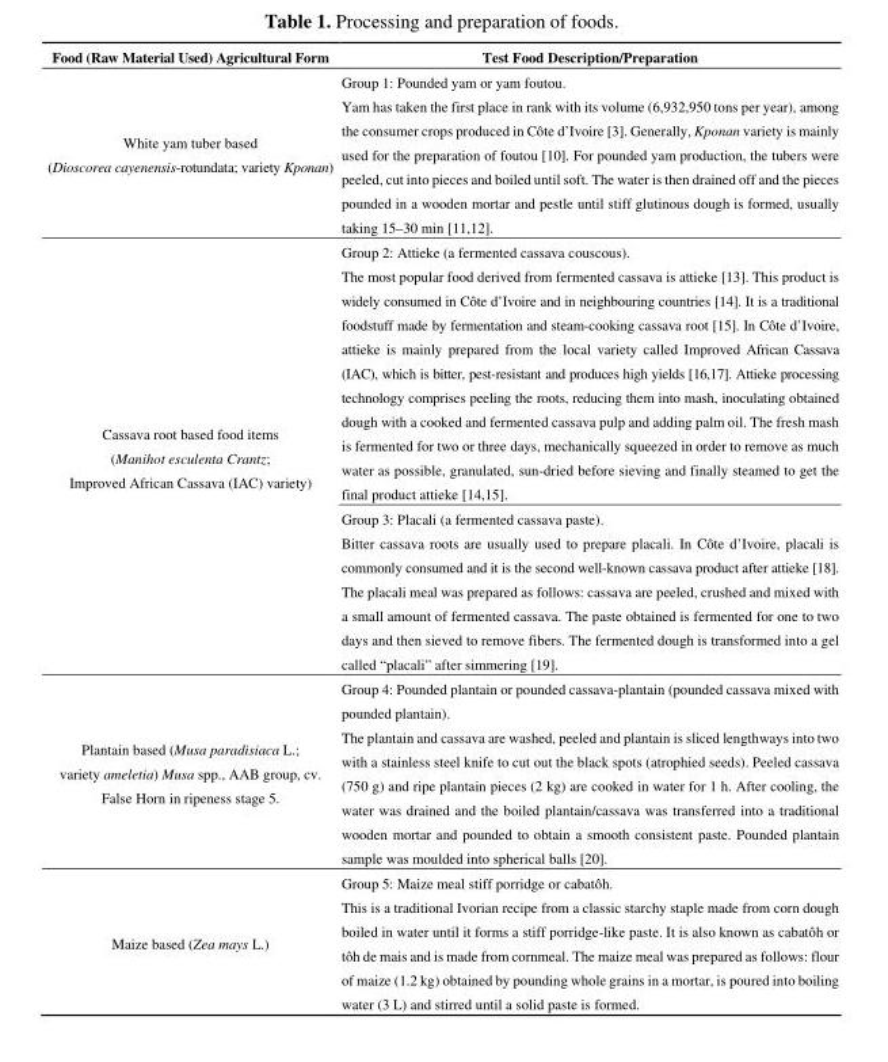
<table><thead><tr><td>Food (Raw Material Used) Agricultural Form</td><td>Test Food Description/Preparation</td></tr></thead><tbody><tr><td>White yam tuber based (Dioscorea cayenensis-rotundata; variety Kponan)</td><td>Group 1: Pounded yam or yam foutou. Yam has taken the first place in rank with its volume (6,932,950 tons per year), among the consumer crops produced in Côte d’Ivoire [3]. Generally, Kponan variety is mainly used for the preparation of foutou [10]. For pounded yam production, the tubers were peeled, cut into pieces and boiled until soft. The water is then drained off and the pieces pounded in a wooden mortar and pestle until stiff glutinous dough is formed, usually taking 15–30 min [11,12].</td></tr><tr><td rowspan="2">Cassava root based food items (Manihot esculenta Crantz; Improved African Cassava (IAC) variety)</td><td>Group 2: Attieke (a fermented cassava couscous). The most popular food derived from fermented cassava is attieke [13]. This product is widely consumed in Côte d’Ivoire and in neighbouring countries [14]. It is a traditional foodstuff made by fermentation and steam-cooking cassava root [15]. In Côte d’Ivoire, attieke is mainly prepared from the local variety called Improved African Cassava (IAC), which is bitter, pest-resistant and produces high yields [16,17]. Attieke processing technology comprises peeling the roots, reducing them into mash, inoculating obtained dough with a cooked and fermented cassava pulp and adding palm oil. The fresh mash is fermented for two or three days, mechanically squeezed in order to remove as much water as possible, granulated, sun-dried before sieving and finally steamed to get the final product attieke [14,15].</td></tr><tr><td>Group 3: Placali (a fermented cassava paste). Bitter cassava roots are usually used to prepare placali. In Côte d’Ivoire, placali is commonly consumed and it is the second well-known cassava product after attieke [18]. The placali meal was prepared as follows: cassava are peeled, crushed and mixed with a small amount of fermented cassava. The paste obtained is fermented for one to two days and then sieved to remove fibers. The fermented dough is transformed into a gel called “placali” after simmering [19].</td></tr><tr><td>Plantain based (Musa paradisiaca L.; variety ameletia) Musa spp., AAB group, cv. False Horn in ripeness stage 5.</td><td>Group 4: Pounded plantain or pounded cassava-plantain (pounded cassava mixed with pounded plantain). The plantain and cassava are washed, peeled and plantain is sliced lengthways into two with a stainless steel knife to cut out the black spots (atrophied seeds). Peeled cassava (750 g) and ripe plantain pieces (2 kg) are cooked in water for 1 h. After cooling, the water was drained and the boiled plantain/cassava was transferred into a traditional wooden mortar and pounded to obtain a smooth consistent paste. Pounded plantain sample was moulded into spherical balls [20].</td></tr><tr><td>Maize based (Zea mays L.)</td><td>Group 5: Maize meal stiff porridge or cabatôh. This is a traditional Ivorian recipe from a classic starchy staple made from corn dough boiled in water until it forms a stiff porridge-like paste. It is also known as cabatôh or tôh de mais and is made from cornmeal. The maize meal was prepared as follows: flour of maize (1.2 kg) obtained by pounding whole grains in a mortar, is poured into boiling water (3 L) and stirred until a solid paste is formed.</td></tr></tbody></table>